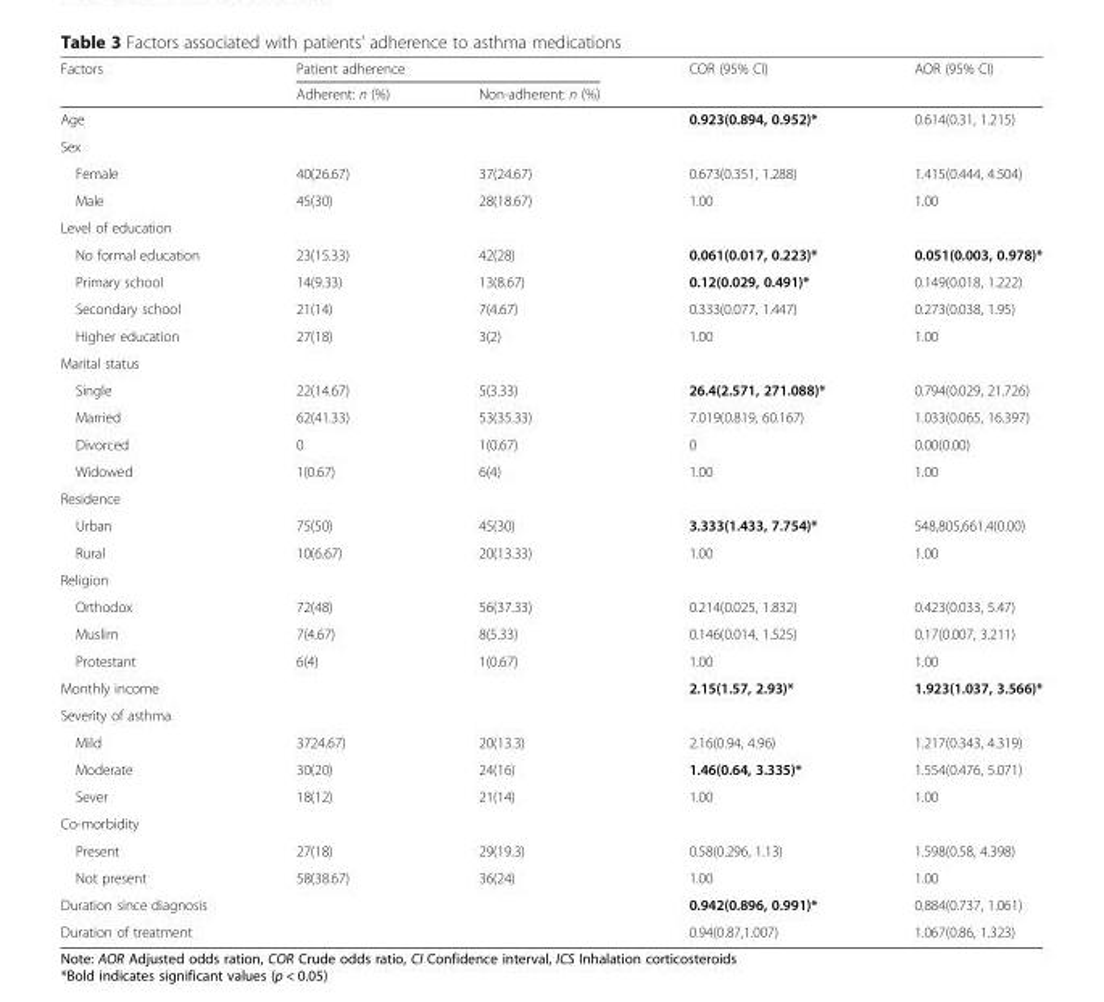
<table><thead><tr><td rowspan="2">Factors</td><td colspan="2">Patient adherence</td><td rowspan="2">COR (95% CI)</td><td rowspan="2">AOR (95% CI)</td></tr><tr><td>Adherent: n (%)</td><td>Non-adherent: n (%)</td></tr></thead><tbody><tr><td>Age</td><td></td><td></td><td>0.923(0.894, 0.952)*</td><td>0.614(0.31, 1.215)</td></tr><tr><td colspan="5">Sex</td></tr><tr><td>Female</td><td>40(26.67)</td><td>37(24.67)</td><td>0.673(0.351, 1.288)</td><td>1.415(0.444, 4.504)</td></tr><tr><td>Male</td><td>45(30)</td><td>28(18.67)</td><td>1.00</td><td>1.00</td></tr><tr><td colspan="5">Level of education</td></tr><tr><td>No formal education</td><td>23(15.33)</td><td>42(28)</td><td>0.061(0.017, 0.223)*</td><td>0.051(0.003, 0.978)*</td></tr><tr><td>Primary school</td><td>14(9.33)</td><td>13(8.67)</td><td>0.12(0.029, 0.491)*</td><td>0.149(0.018, 1.222)</td></tr><tr><td>Secondary school</td><td>21(14)</td><td>7(4.67)</td><td>0.333(0.077, 1.447)</td><td>0.273(0.038, 1.95)</td></tr><tr><td>Higher education</td><td>27(18)</td><td>3(2)</td><td>1.00</td><td>1.00</td></tr><tr><td colspan="5">Marital status</td></tr><tr><td>Single</td><td>22(14.67)</td><td>5(3.33)</td><td>26.4(2.571, 271.088)*</td><td>0.794(0.029, 21.726)</td></tr><tr><td>Married</td><td>62(41.33)</td><td>53(35.33)</td><td>7.019(0.819, 60.167)</td><td>1.033(0.065, 16.397)</td></tr><tr><td>Divorced</td><td>0</td><td>1(0.67)</td><td>0</td><td>0.00(0.00)</td></tr><tr><td>Widowed</td><td>1(0.67)</td><td>6(4)</td><td>1.00</td><td>1.00</td></tr><tr><td colspan="5">Residence</td></tr><tr><td>Urban</td><td>75(50)</td><td>45(30)</td><td>3.333(1.433, 7.754)*</td><td>548,805,661.4(0.00)</td></tr><tr><td>Rural</td><td>10(6.67)</td><td>20(13.33)</td><td>1.00</td><td>1.00</td></tr><tr><td colspan="5">Religion</td></tr><tr><td>Orthodox</td><td>72(48)</td><td>56(37.33)</td><td>0.214(0.025, 1.832)</td><td>0.423(0.033, 5.47)</td></tr><tr><td>Muslim</td><td>7(4.67)</td><td>8(5.33)</td><td>0.146(0.014, 1.525)</td><td>0.17(0.007, 3.211)</td></tr><tr><td>Protestant</td><td>6(4)</td><td>1(0.67)</td><td>1.00</td><td>1.00</td></tr><tr><td>Monthly income</td><td></td><td></td><td>2.15(1.57, 2.93)*</td><td>1.923(1.037, 3.566)*</td></tr><tr><td colspan="5">Severity of asthma</td></tr><tr><td>Mild</td><td>3724.67)</td><td>20(13.3)</td><td>2.16(0.94, 4.96)</td><td>1.217(0.343, 4.319)</td></tr><tr><td>Moderate</td><td>30(20)</td><td>24(16)</td><td>1.46(0.64, 3.335)*</td><td>1.554(0.476, 5.071)</td></tr><tr><td>Sever</td><td>18(12)</td><td>21(14)</td><td>1.00</td><td>1.00</td></tr><tr><td colspan="5">Co-morbidity</td></tr><tr><td>Present</td><td>27(18)</td><td>29(19.3)</td><td>0.58(0.296, 1.13)</td><td>1.598(0.58, 4.398)</td></tr><tr><td>Not present</td><td>58(38.67)</td><td>36(24)</td><td>1.00</td><td>1.00</td></tr><tr><td>Duration since diagnosis</td><td></td><td></td><td>0.942(0.896, 0.991)*</td><td>0.884(0.737, 1.061)</td></tr><tr><td>Duration of treatment</td><td></td><td></td><td>0.94(0.87,1.007)</td><td>1.067(0.86, 1.323)</td></tr></tbody></table>